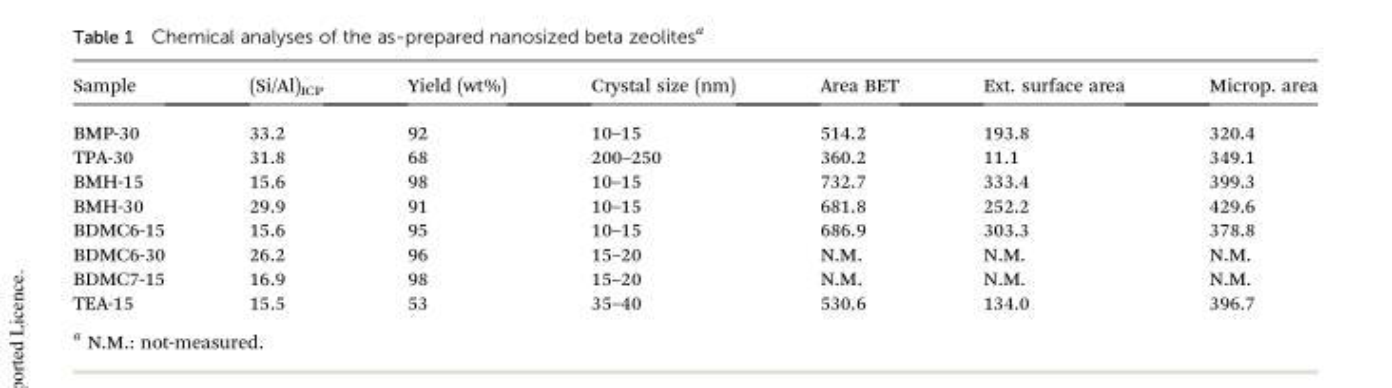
<table><thead><tr><td>Sample</td><td>(Si/Al)<sub>ICP</sub></td><td>Yield (wt%)</td><td>Crystal size (nm)</td><td>Area BET</td><td>Ext. surface area</td><td>Microp. area</td></tr></thead><tbody><tr><td>BMP-30</td><td>33.2</td><td>92</td><td>10–15</td><td>514.2</td><td>193.8</td><td>320.4</td></tr><tr><td>TPA-30</td><td>31.8</td><td>68</td><td>200–250</td><td>360.2</td><td>11.1</td><td>349.1</td></tr><tr><td>BMH-15</td><td>15.6</td><td>98</td><td>10–15</td><td>732.7</td><td>333.4</td><td>399.3</td></tr><tr><td>BMH-30</td><td>29.9</td><td>91</td><td>10–15</td><td>681.8</td><td>252.2</td><td>429.6</td></tr><tr><td>BDMC6-15</td><td>15.6</td><td>95</td><td>10–15</td><td>686.9</td><td>303.3</td><td>378.8</td></tr><tr><td>BDMC6-30</td><td>26.2</td><td>96</td><td>15–20</td><td>N.M.</td><td>N.M.</td><td>N.M.</td></tr><tr><td>BDMC7-15</td><td>16.9</td><td>98</td><td>15–20</td><td>N.M.</td><td>N.M.</td><td>N.M.</td></tr><tr><td>TEA-15</td><td>15.5</td><td>53</td><td>35–40</td><td>530.6</td><td>134.0</td><td>396.7</td></tr></tbody></table>